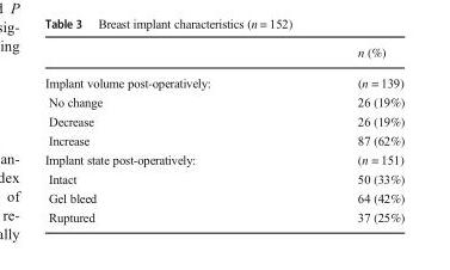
<table><thead><tr><td></td><td>n (%)</td></tr></thead><tbody><tr><td>Implant volume post-operatively:</td><td>(n = 139)</td></tr><tr><td>No change</td><td>26 (19%)</td></tr><tr><td>Decrease</td><td>26 (19%)</td></tr><tr><td>Increase</td><td>87 (62%)</td></tr><tr><td>Implant state post-operatively:</td><td>(n = 151)</td></tr><tr><td>Intact</td><td>50 (33%)</td></tr><tr><td>Gel bleed</td><td>64 (42%)</td></tr><tr><td>Ruptured</td><td>37 (25%)</td></tr></tbody></table>